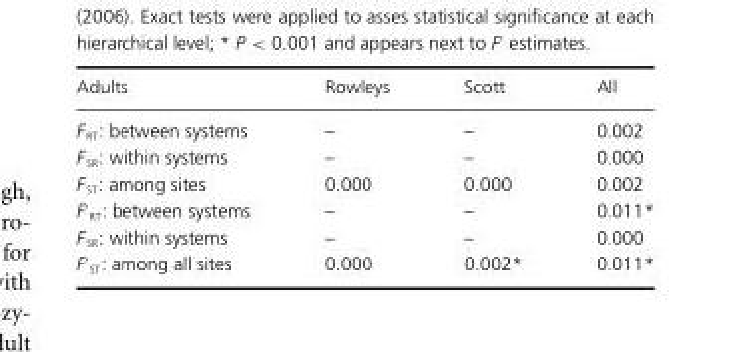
<table><thead><tr><td>Adults</td><td>Rowleys</td><td>Scott</td><td>All</td></tr></thead><tbody><tr><td>F<sub>RT</sub>: between systems</td><td>–</td><td>–</td><td>0.002</td></tr><tr><td>F<sub>SR</sub>: within systems</td><td>–</td><td>–</td><td>0.000</td></tr><tr><td>F<sub>ST</sub>: among sites</td><td>0.000</td><td>0.000</td><td>0.002</td></tr><tr><td>F′ <sub>RT</sub>: between systems</td><td>–</td><td>–</td><td>0.011*</td></tr><tr><td>F<sub>SR</sub>: within systems</td><td>–</td><td>–</td><td>0.000</td></tr><tr><td>F′ <sub>ST</sub>: among all sites</td><td>0.000</td><td>0.002*</td><td>0.011*</td></tr></tbody></table>